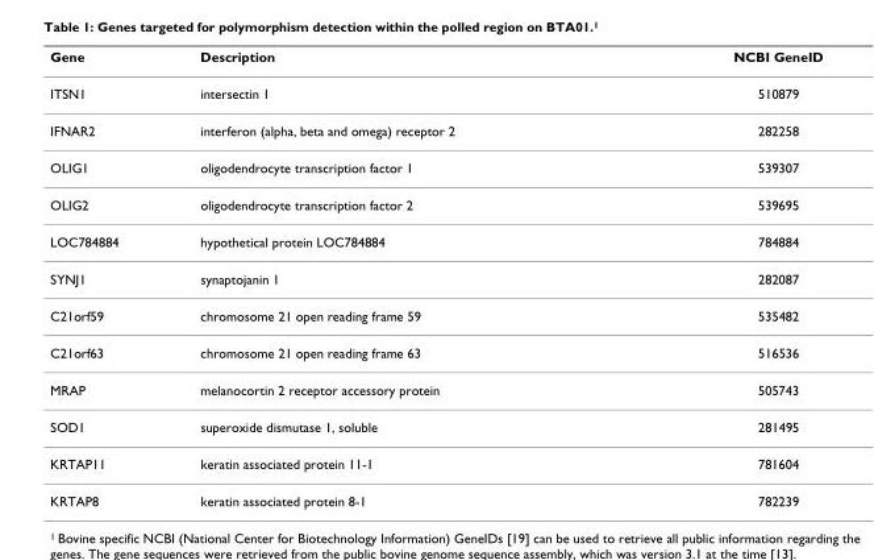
<table><thead><tr><td>Gene</td><td>Description</td><td>NCBI GeneID</td></tr></thead><tbody><tr><td>ITSN1</td><td>intersectin 1</td><td>510879</td></tr><tr><td>IFNAR2</td><td>interferon (alpha, beta and omega) receptor 2</td><td>282258</td></tr><tr><td>OLIG1</td><td>oligodendrocyte transcription factor 1</td><td>539307</td></tr><tr><td>OLIG2</td><td>oligodendrocyte transcription factor 2</td><td>539695</td></tr><tr><td>LOC784884</td><td>hypothetical protein LOC784884</td><td>784884</td></tr><tr><td>SYNJ1</td><td>synaptojanin 1</td><td>282087</td></tr><tr><td>C21orf59</td><td>chromosome 21 open reading frame 59</td><td>535482</td></tr><tr><td>C21orf63</td><td>chromosome 21 open reading frame 63</td><td>516536</td></tr><tr><td>MRAP</td><td>melanocortin 2 receptor accessory protein</td><td>505743</td></tr><tr><td>SOD1</td><td>superoxide dismutase 1, soluble</td><td>281495</td></tr><tr><td>KRTAP11</td><td>keratin associated protein 11-1</td><td>781604</td></tr><tr><td>KRTAP8</td><td>keratin associated protein 8-1</td><td>782239</td></tr></tbody></table>